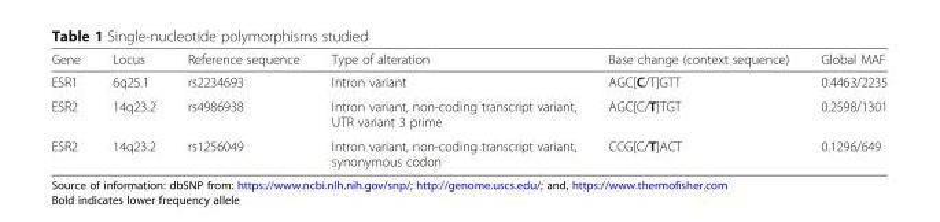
<table><thead><tr><td>Gene</td><td>Locus</td><td>Reference sequence</td><td>Type of alteration</td><td>Base change (context sequence)</td><td>Global MAF</td></tr></thead><tbody><tr><td>ESR1</td><td>6q25.1</td><td>rs2234693</td><td>Intron variant</td><td>AGC[C/T]GTT</td><td>0.4463/2235</td></tr><tr><td>ESR2</td><td>14q23.2</td><td>rs4986938</td><td>Intron variant, non-coding transcript variant, UTR variant 3 prime</td><td>AGC[C/T]TGT</td><td>0.2598/1301</td></tr><tr><td>ESR2</td><td>14q23.2</td><td>rs1256049</td><td>Intron variant, non-coding transcript variant, synonymous codon</td><td>CCG[C/T]ACT</td><td>0.1296/649</td></tr></tbody></table>